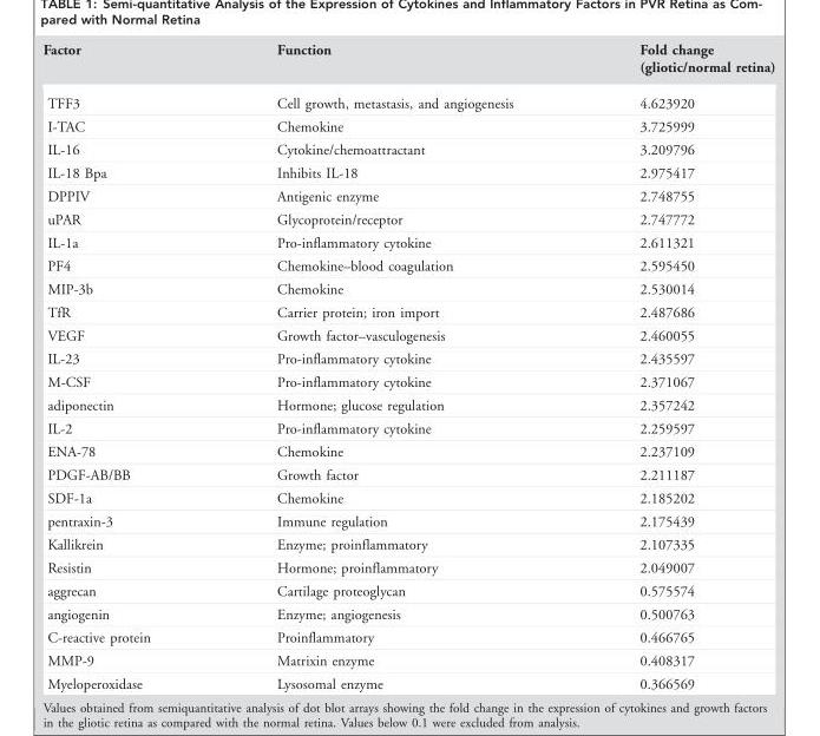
<table><thead><tr><td>Factor</td><td>Function</td><td>Fold change (gliotic/normal retina)</td></tr></thead><tbody><tr><td>TFF3</td><td>Cell growth, metastasis, and angiogenesis</td><td>4.623920</td></tr><tr><td>I-TAC</td><td>Chemokine</td><td>3.725999</td></tr><tr><td>IL-16</td><td>Cytokine/chemoattractant</td><td>3.209796</td></tr><tr><td>IL-18 Bpa</td><td>Inhibits IL-18</td><td>2.975417</td></tr><tr><td>DPPIV</td><td>Antigenic enzyme</td><td>2.748755</td></tr><tr><td>uPAR</td><td>Glycoprotein/receptor</td><td>2.747772</td></tr><tr><td>IL-1a</td><td>Pro-inflammatory cytokine</td><td>2.611321</td></tr><tr><td>PF4</td><td>Chemokine–blood coagulation</td><td>2.595450</td></tr><tr><td>MIP-3b</td><td>Chemokine</td><td>2.530014</td></tr><tr><td>TfR</td><td>Carrier protein; iron import</td><td>2.487686</td></tr><tr><td>VEGF</td><td>Growth factor–vasculogenesis</td><td>2.460055</td></tr><tr><td>IL-23</td><td>Pro-inflammatory cytokine</td><td>2.435597</td></tr><tr><td>M-CSF</td><td>Pro-inflammatory cytokine</td><td>2.371067</td></tr><tr><td>adiponectin</td><td>Hormone; glucose regulation</td><td>2.357242</td></tr><tr><td>IL-2</td><td>Pro-inflammatory cytokine</td><td>2.259597</td></tr><tr><td>ENA-78</td><td>Chemokine</td><td>2.237109</td></tr><tr><td>PDGF-AB/BB</td><td>Growth factor</td><td>2.211187</td></tr><tr><td>SDF-1a</td><td>Chemokine</td><td>2.185202</td></tr><tr><td>pentraxin-3</td><td>Immune regulation</td><td>2.175439</td></tr><tr><td>Kallikrein</td><td>Enzyme; proinflammatory</td><td>2.107335</td></tr><tr><td>Resistin</td><td>Hormone; proinflammatory</td><td>2.049007</td></tr><tr><td>aggrecan</td><td>Cartilage proteoglycan</td><td>0.575574</td></tr><tr><td>angiogenin</td><td>Enzyme; angiogenesis</td><td>0.500763</td></tr><tr><td>C-reactive protein</td><td>Proinflammatory</td><td>0.466765</td></tr><tr><td>MMP-9</td><td>Matrixin enzyme</td><td>0.408317</td></tr><tr><td>Myeloperoxidase</td><td>Lysosomal enzyme</td><td>0.366569</td></tr></tbody></table>